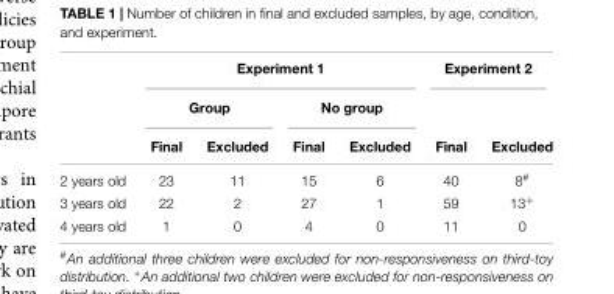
<table><thead><tr><td rowspan="3"></td><td colspan="4">Experiment 1</td><td colspan="2">Experiment 2</td></tr><tr><td colspan="2">Group</td><td colspan="2">No group</td><td rowspan="2">Final</td><td rowspan="2">Excluded</td></tr><tr><td>Final</td><td>Excluded</td><td>Final</td><td>Excluded</td></tr></thead><tbody><tr><td>2 years old</td><td>23</td><td>11</td><td>15</td><td>6</td><td>40</td><td>8<sup>#</sup></td></tr><tr><td>3 years old</td><td>22</td><td>2</td><td>27</td><td>1</td><td>59</td><td>13<sup>+</sup></td></tr><tr><td>4 years old</td><td>1</td><td>0</td><td>4</td><td>0</td><td>11</td><td>0</td></tr></tbody></table>